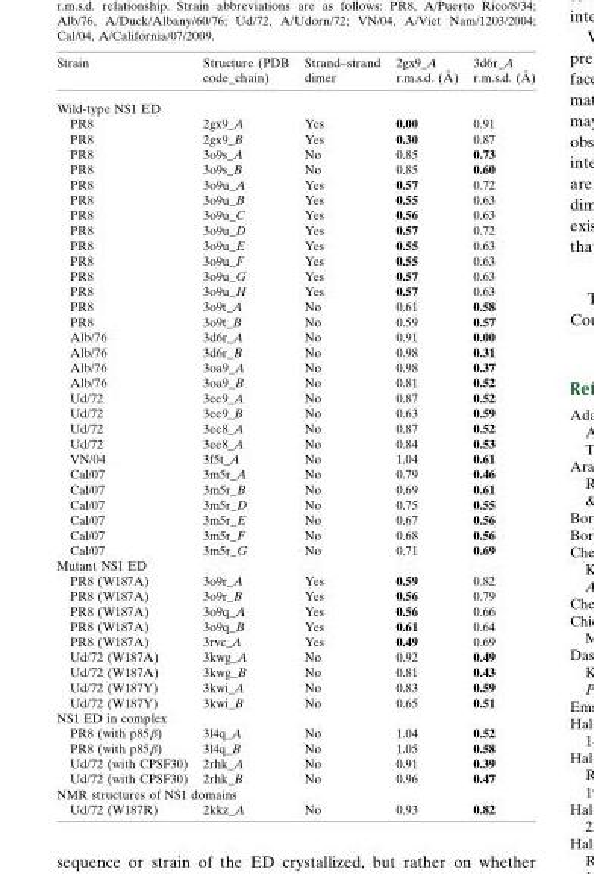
<table><thead><tr><td>Strain</td><td>Structure (PDB code_chain)</td><td>Strand–strand dimer</td><td>2gx9_A r.m.s.d. (A˚ )</td><td>3d6r_A r.m.s.d. (A˚ )</td></tr></thead><tbody><tr><td colspan="5">Wild-type NS1 ED</td></tr><tr><td>PR8</td><td>2gx9_A</td><td>Yes</td><td>0.00</td><td>0.91</td></tr><tr><td>PR8</td><td>2gx9_B</td><td>Yes</td><td>0.30</td><td>0.87</td></tr><tr><td>PR8</td><td>3o9s_A</td><td>No</td><td>0.85</td><td>0.73</td></tr><tr><td>PR8</td><td>3o9s_B</td><td>No</td><td>0.85</td><td>0.60</td></tr><tr><td>PR8</td><td>3o9u_A</td><td>Yes</td><td>0.57</td><td>0.72</td></tr><tr><td>PR8</td><td>3o9u_B</td><td>Yes</td><td>0.55</td><td>0.63</td></tr><tr><td>PR8</td><td>3o9u_C</td><td>Yes</td><td>0.56</td><td>0.63</td></tr><tr><td>PR8</td><td>3o9u_D</td><td>Yes</td><td>0.57</td><td>0.72</td></tr><tr><td>PR8</td><td>3o9u_E</td><td>Yes</td><td>0.55</td><td>0.63</td></tr><tr><td>PR8</td><td>3o9u_F</td><td>Yes</td><td>0.55</td><td>0.63</td></tr><tr><td>PR8</td><td>3o9u_G</td><td>Yes</td><td>0.57</td><td>0.63</td></tr><tr><td>PR8</td><td>3o9u_H</td><td>Yes</td><td>0.57</td><td>0.63</td></tr><tr><td>PR8</td><td>3o9t_A</td><td>No</td><td>0.61</td><td>0.58</td></tr><tr><td>PR8</td><td>3o9t_B</td><td>No</td><td>0.59</td><td>0.57</td></tr><tr><td>Alb/76</td><td>3d6r_A</td><td>No</td><td>0.91</td><td>0.00</td></tr><tr><td>Alb/76</td><td>3d6r_B</td><td>No</td><td>0.98</td><td>0.31</td></tr><tr><td>Alb/76</td><td>3oa9_A</td><td>No</td><td>0.98</td><td>0.37</td></tr><tr><td>Alb/76</td><td>3oa9_B</td><td>No</td><td>0.81</td><td>0.52</td></tr><tr><td>Ud/72</td><td>3ee9_A</td><td>No</td><td>0.87</td><td>0.52</td></tr><tr><td>Ud/72</td><td>3ee9_B</td><td>No</td><td>0.63</td><td>0.59</td></tr><tr><td>Ud/72</td><td>3ee8_A</td><td>No</td><td>0.87</td><td>0.52</td></tr><tr><td>Ud/72</td><td>3ee8_A</td><td>No</td><td>0.84</td><td>0.53</td></tr><tr><td>VN/04</td><td>3f5t_A</td><td>No</td><td>1.04</td><td>0.61</td></tr><tr><td>Cal/07</td><td>3m5r_A</td><td>No</td><td>0.79</td><td>0.46</td></tr><tr><td>Cal/07</td><td>3m5r_B</td><td>No</td><td>0.69</td><td>0.61</td></tr><tr><td>Cal/07</td><td>3m5r_D</td><td>No</td><td>0.75</td><td>0.55</td></tr><tr><td>Cal/07</td><td>3m5r_E</td><td>No</td><td>0.67</td><td>0.56</td></tr><tr><td>Cal/07</td><td>3m5r_F</td><td>No</td><td>0.68</td><td>0.56</td></tr><tr><td>Cal/07</td><td>3m5r_G</td><td>No</td><td>0.71</td><td>0.69</td></tr><tr><td colspan="5">Mutant NS1 ED</td></tr><tr><td>PR8 (W187A)</td><td>3o9r_A</td><td>Yes</td><td>0.59</td><td>0.82</td></tr><tr><td>PR8 (W187A)</td><td>3o9r_B</td><td>Yes</td><td>0.56</td><td>0.79</td></tr><tr><td>PR8 (W187A)</td><td>3o9q_A</td><td>Yes</td><td>0.56</td><td>0.66</td></tr><tr><td>PR8 (W187A)</td><td>3o9q_B</td><td>Yes</td><td>0.61</td><td>0.64</td></tr><tr><td>PR8 (W187A)</td><td>3rvc_A</td><td>Yes</td><td>0.49</td><td>0.69</td></tr><tr><td>Ud/72 (W187A)</td><td>3kwg_A</td><td>No</td><td>0.92</td><td>0.49</td></tr><tr><td>Ud/72 (W187A)</td><td>3kwg_B</td><td>No</td><td>0.81</td><td>0.43</td></tr><tr><td>Ud/72 (W187Y)</td><td>3kwi_A</td><td>No</td><td>0.83</td><td>0.59</td></tr><tr><td>Ud/72 (W187Y)</td><td>3kwi_B</td><td>No</td><td>0.65</td><td>0.51</td></tr><tr><td colspan="5">NS1 ED in complex</td></tr><tr><td>PR8 (with p85β)</td><td>3l4q_A</td><td>No</td><td>1.04</td><td>0.52</td></tr><tr><td>PR8 (with p85β)</td><td>3l4q_B</td><td>No</td><td>1.05</td><td>0.58</td></tr><tr><td>Ud/72 (with CPSF30)</td><td>2rhk_A</td><td>No</td><td>0.91</td><td>0.39</td></tr><tr><td>Ud/72 (with CPSF30)</td><td>2rhk_B</td><td>No</td><td>0.96</td><td>0.47</td></tr><tr><td colspan="5">NMR structures of NS1 domains</td></tr><tr><td>Ud/72 (W187R)</td><td>2kkz_A</td><td>No</td><td>0.93</td><td>0.82</td></tr></tbody></table>